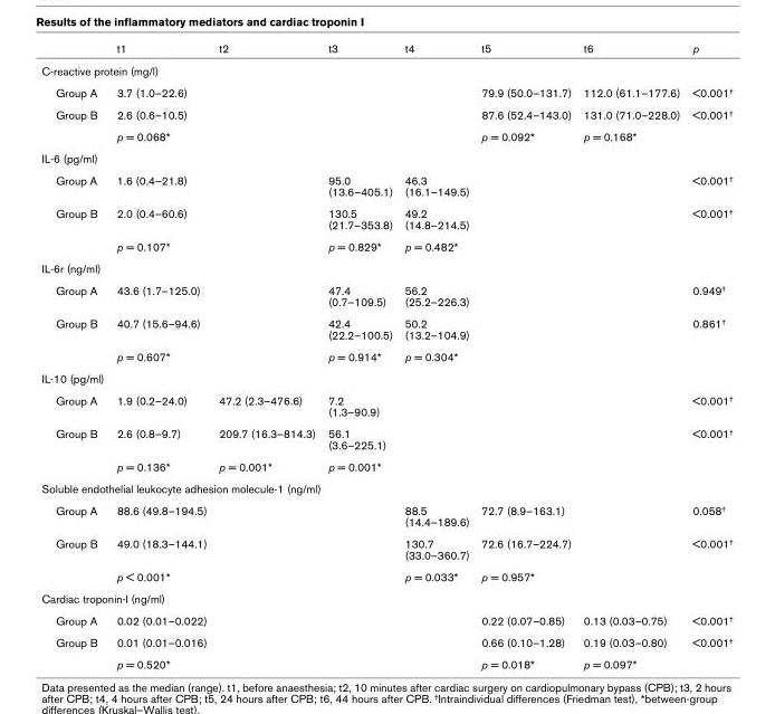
<table><thead><tr><td></td><td>t1</td><td>t2</td><td>t3</td><td>t4</td><td>t5</td><td>t6</td><td>p</td></tr></thead><tbody><tr><td colspan="8">C-reactive protein (mg/l)</td></tr><tr><td>Group A</td><td>3.7 (1.0–22.6)</td><td></td><td></td><td></td><td>79.9 (50.0–131.7)</td><td>112.0 (61.1–177.6)</td><td>&lt;0.001<sup>†</sup></td></tr><tr><td rowspan="2">Group B</td><td>2.6 (0.6–10.5)</td><td></td><td></td><td></td><td>87.6 (52.4–143.0)</td><td>131.0 (71.0–228.0)</td><td>&lt;0.001<sup>†</sup></td></tr><tr><td>p = 0.068*</td><td></td><td></td><td></td><td>p = 0.092*</td><td>p = 0.168*</td><td></td></tr><tr><td colspan="8">IL-6 (pg/ml)</td></tr><tr><td>Group A</td><td>1.6 (0.4–21.8)</td><td></td><td>95.0 (13.6–405.1)</td><td>46.3 (16.1–149.5)</td><td></td><td></td><td>&lt;0.001<sup>†</sup></td></tr><tr><td rowspan="2">Group B</td><td>2.0 (0.4–60.6)</td><td></td><td>130.5 (21.7–353.8)</td><td>49.2 (14.8–214.5)</td><td></td><td></td><td>&lt;0.001<sup>†</sup></td></tr><tr><td>p = 0.107*</td><td></td><td>p = 0.829*</td><td>p = 0.482*</td><td></td><td></td><td></td></tr><tr><td colspan="8">IL-6r (ng/ml)</td></tr><tr><td>Group A</td><td>43.6 (1.7–125.0)</td><td></td><td>47.4 (0.7–109.5)</td><td>56.2 (25.2–226.3)</td><td></td><td></td><td>0.949<sup>†</sup></td></tr><tr><td rowspan="2">Group B</td><td>40.7 (15.6–94.6)</td><td></td><td>42.4 (22.2–100.5)</td><td>50.2 (13.2–104.9)</td><td></td><td></td><td>0.861<sup>†</sup></td></tr><tr><td>p = 0.607*</td><td></td><td>p = 0.914*</td><td>p = 0.304*</td><td></td><td></td><td></td></tr><tr><td colspan="8">IL-10 (pg/ml)</td></tr><tr><td>Group A</td><td>1.9 (0.2–24.0)</td><td>47.2 (2.3–476.6)</td><td>7.2 (1.3–90.9)</td><td></td><td></td><td></td><td>&lt;0.001<sup>†</sup></td></tr><tr><td rowspan="2">Group B</td><td>2.6 (0.8–9.7)</td><td>209.7 (16.3–814.3)</td><td>56.1 (3.6–225.1)</td><td></td><td></td><td></td><td>&lt;0.001<sup>†</sup></td></tr><tr><td>p = 0.136*</td><td>p = 0.001*</td><td>p = 0.001*</td><td></td><td></td><td></td><td></td></tr><tr><td colspan="8">Soluble endothelial leukocyte adhesion molecule-1 (ng/ml)</td></tr><tr><td>Group A</td><td>88.6 (49.8–194.5)</td><td></td><td></td><td>88.5 (14.4–189.6)</td><td>72.7 (8.9–163.1)</td><td></td><td>0.058<sup>†</sup></td></tr><tr><td rowspan="2">Group B</td><td>49.0 (18.3–144.1)</td><td></td><td></td><td>130.7 (33.0–360.7)</td><td>72.6 (16.7–224.7)</td><td></td><td>&lt;0.001<sup>†</sup></td></tr><tr><td>p &lt; 0.001*</td><td></td><td></td><td>p = 0.033*</td><td>p = 0.957*</td><td></td><td></td></tr><tr><td colspan="8">Cardiac troponin-I (ng/ml)</td></tr><tr><td>Group A</td><td>0.02 (0.01–0.022)</td><td></td><td></td><td></td><td>0.22 (0.07–0.85)</td><td>0.13 (0.03–0.75)</td><td>&lt;0.001<sup>†</sup></td></tr><tr><td rowspan="2">Group B</td><td>0.01 (0.01–0.016)</td><td></td><td></td><td></td><td>0.66 (0.10–1.28)</td><td>0.19 (0.03–0.80)</td><td>&lt;0.001<sup>†</sup></td></tr><tr><td>p = 0.520*</td><td></td><td></td><td></td><td>p = 0.018*</td><td>p = 0.097*</td><td></td></tr></tbody></table>